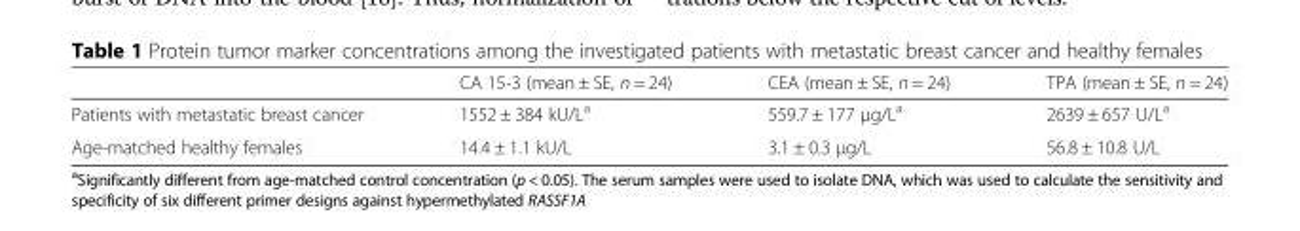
<table><thead><tr><td></td><td>CA 15-3 (mean ± SE, n = 24)</td><td>CEA (mean ± SE, n = 24)</td><td>TPA (mean ± SE, n = 24)</td></tr></thead><tbody><tr><td>Patients with metastatic breast cancer</td><td>1552 ± 384 kU/L<sup>a</sup></td><td>559.7 ± 177 μg/L<sup>a</sup></td><td>2639 ± 657 U/L<sup>a</sup></td></tr><tr><td>Age-matched healthy females</td><td>14.4 ± 1.1 kU/L</td><td>3.1 ± 0.3 μg/L</td><td>56.8 ± 10.8 U/L</td></tr></tbody></table>